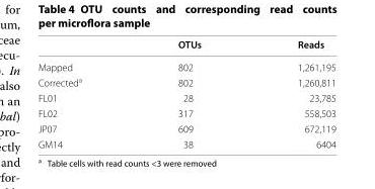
<table><thead><tr><td></td><td>OTUs</td><td>Reads</td></tr></thead><tbody><tr><td>Mapped</td><td>802</td><td>1,261,195</td></tr><tr><td>Corrected<sup>a</sup></td><td>802</td><td>1,260,811</td></tr><tr><td>FL01</td><td>28</td><td>23,785</td></tr><tr><td>FL02</td><td>317</td><td>558,503</td></tr><tr><td>JP07</td><td>609</td><td>672,119</td></tr><tr><td>GM14</td><td>38</td><td>6404</td></tr></tbody></table>